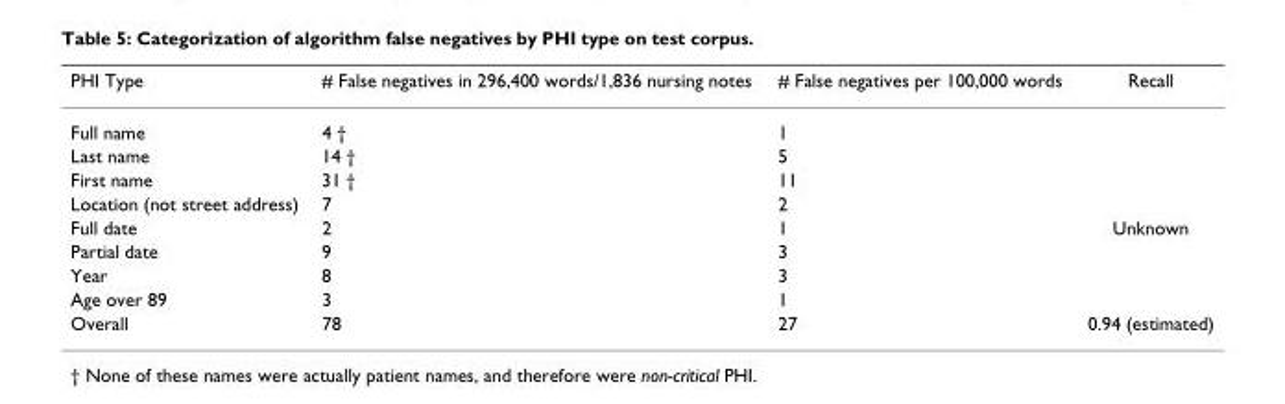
<table><thead><tr><td>PHI Type</td><td># False negatives in 296,400 words/1,836 nursing notes</td><td># False negatives per 100,000 words</td><td>Recall</td></tr></thead><tbody><tr><td>Full name</td><td>4 †</td><td>1</td><td></td></tr><tr><td>Last name</td><td>14 †</td><td>5</td><td></td></tr><tr><td>First name</td><td>31 †</td><td>11</td><td></td></tr><tr><td>Location (not street address)</td><td>7</td><td>2</td><td></td></tr><tr><td>Full date</td><td>2</td><td>1</td><td>Unknown</td></tr><tr><td>Partial date</td><td>9</td><td>3</td><td></td></tr><tr><td>Year</td><td>8</td><td>3</td><td></td></tr><tr><td>Age over 89</td><td>3</td><td>1</td><td></td></tr><tr><td>Overall</td><td>78</td><td>27</td><td>0.94 (estimated)</td></tr></tbody></table>